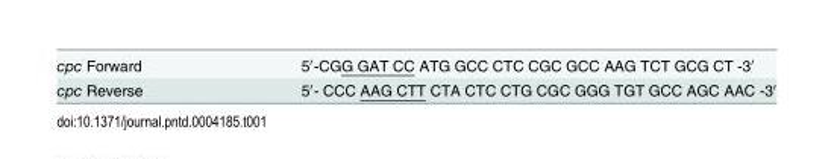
<table><tbody><tr><td>cpc Forward</td><td>5′-CGG GAT CC ATG GCC CTC CGC GCC AAG TCT GCG CT -3′</td></tr><tr><td>cpc Reverse</td><td>5′- CCC AAG CTT CTA CTC CTG CGC GGG TGT GCC AGC AAC -3′</td></tr></tbody></table>